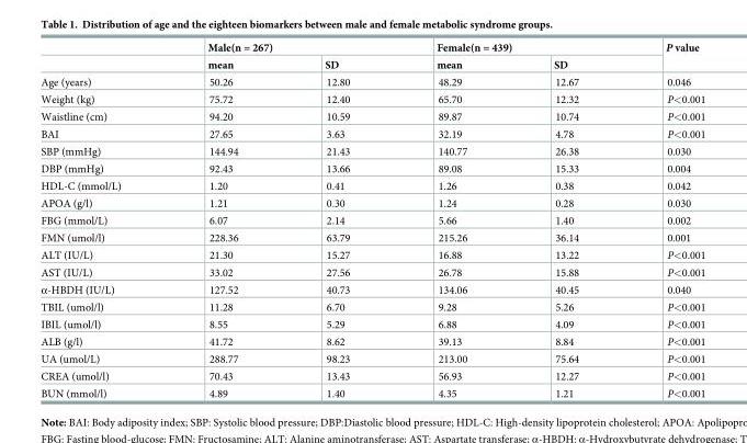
<table><thead><tr><td rowspan="2"></td><td colspan="2">Male(n = 267)</td><td colspan="2">Female(n = 439)</td><td rowspan="2">P value</td></tr><tr><td>mean</td><td>SD</td><td>mean</td><td>SD</td></tr></thead><tbody><tr><td>Age (years)</td><td>50.26</td><td>12.80</td><td>48.29</td><td>12.67</td><td>0.046</td></tr><tr><td>Weight (kg)</td><td>75.72</td><td>12.40</td><td>65.70</td><td>12.32</td><td>P&lt;0.001</td></tr><tr><td>Waistline (cm)</td><td>94.20</td><td>10.59</td><td>89.87</td><td>10.74</td><td>P&lt;0.001</td></tr><tr><td>BAI</td><td>27.65</td><td>3.63</td><td>32.19</td><td>4.78</td><td>P&lt;0.001</td></tr><tr><td>SBP (mmHg)</td><td>144.94</td><td>21.43</td><td>140.77</td><td>26.38</td><td>0.030</td></tr><tr><td>DBP (mmHg)</td><td>92.43</td><td>13.66</td><td>89.08</td><td>15.33</td><td>0.004</td></tr><tr><td>HDL-C (mmol/L)</td><td>1.20</td><td>0.41</td><td>1.26</td><td>0.38</td><td>0.042</td></tr><tr><td>APOA (g/l)</td><td>1.21</td><td>0.30</td><td>1.24</td><td>0.28</td><td>0.030</td></tr><tr><td>FBG (mmol/L)</td><td>6.07</td><td>2.14</td><td>5.66</td><td>1.40</td><td>0.002</td></tr><tr><td>FMN (umol/l)</td><td>228.36</td><td>63.79</td><td>215.26</td><td>36.14</td><td>0.001</td></tr><tr><td>ALT (IU/L)</td><td>21.30</td><td>15.27</td><td>16.88</td><td>13.22</td><td>P&lt;0.001</td></tr><tr><td>AST (IU/L)</td><td>33.02</td><td>27.56</td><td>26.78</td><td>15.88</td><td>P&lt;0.001</td></tr><tr><td>α-HBDH (IU/L)</td><td>127.52</td><td>40.73</td><td>134.06</td><td>40.45</td><td>0.040</td></tr><tr><td>TBIL (umol/l)</td><td>11.28</td><td>6.70</td><td>9.28</td><td>5.26</td><td>P&lt;0.001</td></tr><tr><td>IBIL (umol/l)</td><td>8.55</td><td>5.29</td><td>6.88</td><td>4.09</td><td>P&lt;0.001</td></tr><tr><td>ALB (g/l)</td><td>41.72</td><td>8.62</td><td>39.13</td><td>8.84</td><td>P&lt;0.001</td></tr><tr><td>UA (umol/L)</td><td>288.77</td><td>98.23</td><td>213.00</td><td>75.64</td><td>P&lt;0.001</td></tr><tr><td>CREA (umol/l)</td><td>70.43</td><td>13.43</td><td>56.93</td><td>12.27</td><td>P&lt;0.001</td></tr><tr><td>BUN (mmol/l)</td><td>4.89</td><td>1.40</td><td>4.35</td><td>1.21</td><td>P&lt;0.001</td></tr></tbody></table>